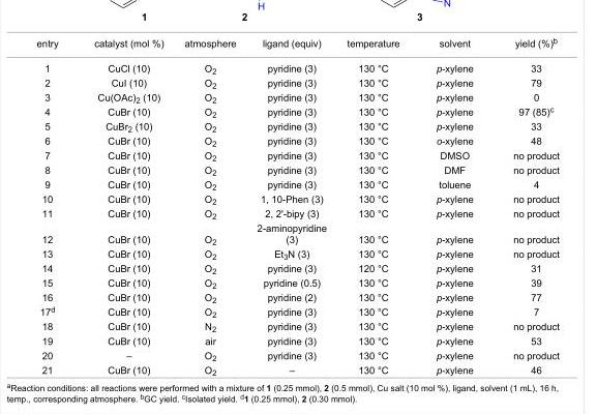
<table><tbody><tr><td>entry</td><td>catalyst (mol %)</td><td>atmosphere</td><td>ligand (equiv)</td><td>temperature</td><td>solvent</td><td>yield (%)<sup>b</sup></td></tr><tr><td>1</td><td>CuCl (10)</td><td>O<sub>2</sub></td><td>pyridine (3)</td><td>130 °C</td><td>p-xylene</td><td>33</td></tr><tr><td>2</td><td>CuI (10)</td><td>O<sub>2</sub></td><td>pyridine (3)</td><td>130 °C</td><td>p-xylene</td><td>79</td></tr><tr><td>3</td><td>Cu(OAc)<sub>2</sub> (10)</td><td>O<sub>2</sub></td><td>pyridine (3)</td><td>130 °C</td><td>p-xylene</td><td>0</td></tr><tr><td>4</td><td>CuBr (10)</td><td>O<sub>2</sub></td><td>pyridine (3)</td><td>130 °C</td><td>p-xylene</td><td>97 (85)<sup>c</sup></td></tr><tr><td>5</td><td>CuBr<sub>2</sub> (10)</td><td>O<sub>2</sub></td><td>pyridine (3)</td><td>130 °C</td><td>p-xylene</td><td>33</td></tr><tr><td>6</td><td>CuBr (10)</td><td>O<sub>2</sub></td><td>pyridine (3)</td><td>130 °C</td><td>o-xylene</td><td>48</td></tr><tr><td>7</td><td>CuBr (10)</td><td>O<sub>2</sub></td><td>pyridine (3)</td><td>130 °C</td><td>DMSO</td><td>no product</td></tr><tr><td>8</td><td>CuBr (10)</td><td>O<sub>2</sub></td><td>pyridine (3)</td><td>130 °C</td><td>DMF</td><td>no product</td></tr><tr><td>9</td><td>CuBr (10)</td><td>O<sub>2</sub></td><td>pyridine (3)</td><td>130 °C</td><td>toluene</td><td>4</td></tr><tr><td>10</td><td>CuBr (10)</td><td>O<sub>2</sub></td><td>1, 10-Phen (3)</td><td>130 °C</td><td>p-xylene</td><td>no product</td></tr><tr><td>11</td><td>CuBr (10)</td><td>O<sub>2</sub></td><td>2, 2&#x27;-bipy (3)</td><td>130 °C</td><td>p-xylene</td><td>no product</td></tr><tr><td>12</td><td>CuBr (10)</td><td>O<sub>2</sub></td><td>2-aminopyridine (3)</td><td>130 °C</td><td>p-xylene</td><td>no product</td></tr><tr><td>13</td><td>CuBr (10)</td><td>O<sub>2</sub></td><td>Et<sub>3</sub>N (3)</td><td>130 °C</td><td>p-xylene</td><td>no product</td></tr><tr><td>14</td><td>CuBr (10)</td><td>O<sub>2</sub></td><td>pyridine (3)</td><td>120 °C</td><td>p-xylene</td><td>31</td></tr><tr><td>15</td><td>CuBr (10)</td><td>O<sub>2</sub></td><td>pyridine (0.5)</td><td>130 °C</td><td>p-xylene</td><td>39</td></tr><tr><td>16</td><td>CuBr (10)</td><td>O<sub>2</sub></td><td>pyridine (2)</td><td>130 °C</td><td>p-xylene</td><td>77</td></tr><tr><td>17<sup>d</sup></td><td>CuBr (10)</td><td>O<sub>2</sub></td><td>pyridine (3)</td><td>130 °C</td><td>p-xylene</td><td>7</td></tr><tr><td>18</td><td>CuBr (10)</td><td>N<sub>2</sub></td><td>pyridine (3)</td><td>130 °C</td><td>p-xylene</td><td>no product</td></tr><tr><td>19</td><td>CuBr (10)</td><td>air</td><td>pyridine (3)</td><td>130 °C</td><td>p-xylene</td><td>53</td></tr><tr><td>20</td><td>–</td><td>O<sub>2</sub></td><td>pyridine (3)</td><td>130 °C</td><td>p-xylene</td><td>no product</td></tr><tr><td>21</td><td>CuBr (10)</td><td>O<sub>2</sub></td><td>–</td><td>130 °C</td><td>p-xylene</td><td>46</td></tr></tbody></table>